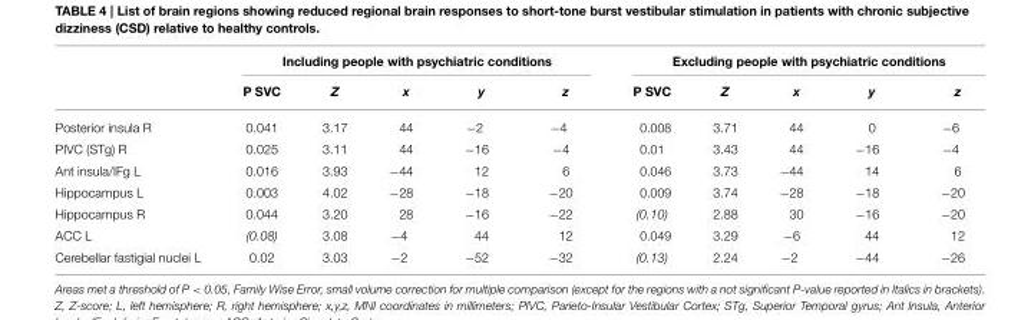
<table><thead><tr><td rowspan="2"></td><td colspan="5">Including people with psychiatric conditions</td><td colspan="5">Excluding people with psychiatric conditions</td></tr><tr><td>P SVC</td><td>Z</td><td>x</td><td>y</td><td>z</td><td>P SVC</td><td>Z</td><td>x</td><td>y</td><td>z</td></tr></thead><tbody><tr><td>Posterior insula R</td><td>0.041</td><td>3.17</td><td>44</td><td>−2</td><td>−4</td><td>0.008</td><td>3.71</td><td>44</td><td>0</td><td>−6</td></tr><tr><td>PIVC (STg) R</td><td>0.025</td><td>3.11</td><td>44</td><td>−16</td><td>−4</td><td>0.01</td><td>3.43</td><td>44</td><td>−16</td><td>−4</td></tr><tr><td>Ant insula/IFg L</td><td>0.016</td><td>3.93</td><td>−44</td><td>12</td><td>6</td><td>0.046</td><td>3.73</td><td>−44</td><td>14</td><td>6</td></tr><tr><td>Hippocampus L</td><td>0.003</td><td>4.02</td><td>−28</td><td>−18</td><td>−20</td><td>0.009</td><td>3.74</td><td>−28</td><td>−18</td><td>−20</td></tr><tr><td>Hippocampus R</td><td>0.044</td><td>3.20</td><td>28</td><td>−16</td><td>−22</td><td>(0.10)</td><td>2.88</td><td>30</td><td>−16</td><td>−20</td></tr><tr><td>ACC L</td><td>(0.08)</td><td>3.08</td><td>−4</td><td>44</td><td>12</td><td>0.049</td><td>3.29</td><td>−6</td><td>44</td><td>12</td></tr><tr><td>Cerebellar fastigial nuclei L</td><td>0.02</td><td>3.03</td><td>−2</td><td>−52</td><td>−32</td><td>(0.13)</td><td>2.24</td><td>−2</td><td>−44</td><td>−26</td></tr></tbody></table>